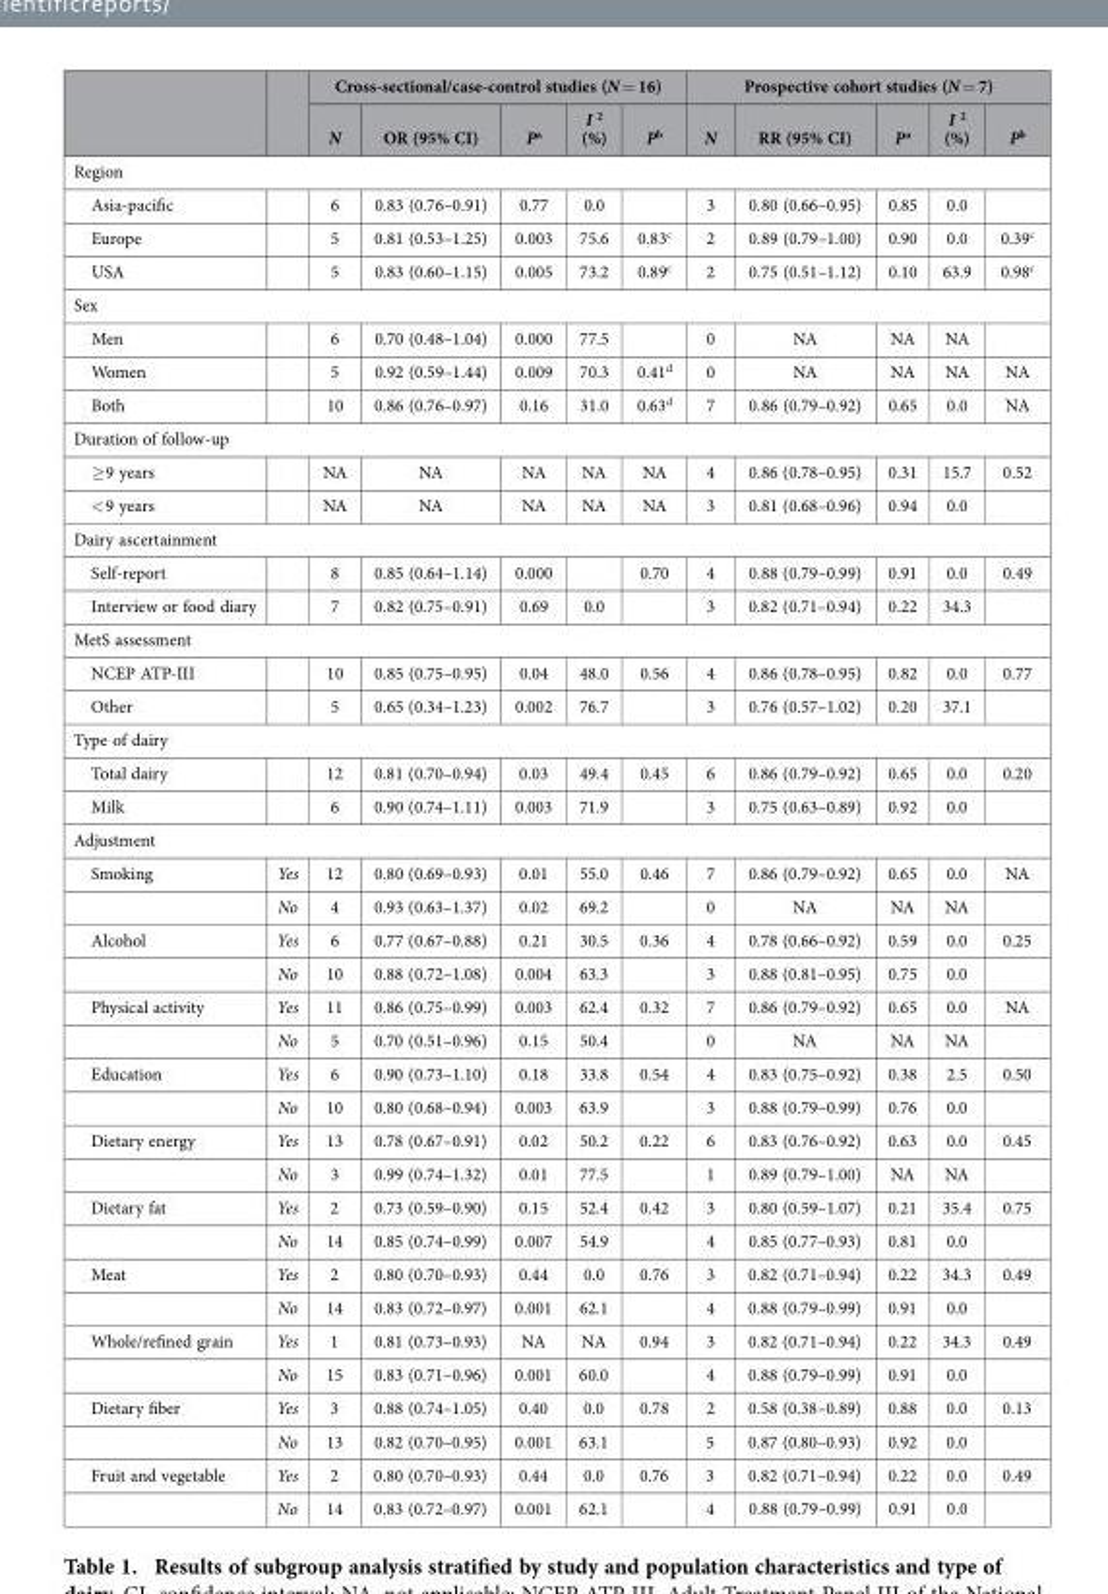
<table><thead><tr><td rowspan="2"></td><td rowspan="2"></td><td colspan="5">Cross-sectional/case-control studies (N = 16)</td><td colspan="5">Prospective cohort studies (N = 7)</td></tr><tr><td>N</td><td>OR (95% CI)</td><td>P<sup>a</sup></td><td>I <sup>2</sup> (%)</td><td>P<sup>b</sup></td><td>N</td><td>RR (95% CI)</td><td>P<sup>a</sup></td><td>I <sup>2</sup> (%)</td><td>P<sup>b</sup></td></tr></thead><tbody><tr><td colspan="12">Region</td></tr><tr><td>Asia-pacific</td><td></td><td>6</td><td>0.83 (0.76–0.91)</td><td>0.77</td><td>0.0</td><td></td><td>3</td><td>0.80 (0.66–0.95)</td><td>0.85</td><td>0.0</td><td></td></tr><tr><td>Europe</td><td></td><td>5</td><td>0.81 (0.53–1.25)</td><td>0.003</td><td>75.6</td><td>0.83<sup>c</sup></td><td>2</td><td>0.89 (0.79–1.00)</td><td>0.90</td><td>0.0</td><td>0.39<sup>c</sup></td></tr><tr><td>USA</td><td></td><td>5</td><td>0.83 (0.60–1.15)</td><td>0.005</td><td>73.2</td><td>0.89<sup>c</sup></td><td>2</td><td>0.75 (0.51–1.12)</td><td>0.10</td><td>63.9</td><td>0.98<sup>c</sup></td></tr><tr><td colspan="12">Sex</td></tr><tr><td>Men</td><td></td><td>6</td><td>0.70 (0.48–1.04)</td><td>0.000</td><td>77.5</td><td></td><td>0</td><td>NA</td><td>NA</td><td>NA</td><td></td></tr><tr><td>Women</td><td></td><td>5</td><td>0.92 (0.59–1.44)</td><td>0.009</td><td>70.3</td><td>0.41<sup>d</sup></td><td>0</td><td>NA</td><td>NA</td><td>NA</td><td>NA</td></tr><tr><td>Both</td><td></td><td>10</td><td>0.86 (0.76–0.97)</td><td>0.16</td><td>31.0</td><td>0.63<sup>d</sup></td><td>7</td><td>0.86 (0.79–0.92)</td><td>0.65</td><td>0.0</td><td>NA</td></tr><tr><td colspan="12">Duration of follow-up</td></tr><tr><td>≥ 9 years</td><td></td><td>NA</td><td>NA</td><td>NA</td><td>NA</td><td>NA</td><td>4</td><td>0.86 (0.78–0.95)</td><td>0.31</td><td>15.7</td><td>0.52</td></tr><tr><td>&lt; 9 years</td><td></td><td>NA</td><td>NA</td><td>NA</td><td>NA</td><td>NA</td><td>3</td><td>0.81 (0.68–0.96)</td><td>0.94</td><td>0.0</td><td></td></tr><tr><td colspan="12">Dairy ascertainment</td></tr><tr><td>Self-report</td><td></td><td>8</td><td>0.85 (0.64–1.14)</td><td>0.000</td><td></td><td>0.70</td><td>4</td><td>0.88 (0.79–0.99)</td><td>0.91</td><td>0.0</td><td>0.49</td></tr><tr><td>Interview or food diary</td><td></td><td>7</td><td>0.82 (0.75–0.91)</td><td>0.69</td><td>0.0</td><td></td><td>3</td><td>0.82 (0.71–0.94)</td><td>0.22</td><td>34.3</td><td></td></tr><tr><td colspan="12">MetS assessment</td></tr><tr><td>NCEP ATP-III</td><td></td><td>10</td><td>0.85 (0.75–0.95)</td><td>0.04</td><td>48.0</td><td>0.56</td><td>4</td><td>0.86 (0.78–0.95)</td><td>0.82</td><td>0.0</td><td>0.77</td></tr><tr><td>Other</td><td></td><td>5</td><td>0.65 (0.34–1.23)</td><td>0.002</td><td>76.7</td><td></td><td>3</td><td>0.76 (0.57–1.02)</td><td>0.20</td><td>37.1</td><td></td></tr><tr><td colspan="12">Type of dairy</td></tr><tr><td>Total dairy</td><td></td><td>12</td><td>0.81 (0.70–0.94)</td><td>0.03</td><td>49.4</td><td>0.45</td><td>6</td><td>0.86 (0.79–0.92)</td><td>0.65</td><td>0.0</td><td>0.20</td></tr><tr><td>Milk</td><td></td><td>6</td><td>0.90 (0.74–1.11)</td><td>0.003</td><td>71.9</td><td></td><td>3</td><td>0.75 (0.63–0.89)</td><td>0.92</td><td>0.0</td><td></td></tr><tr><td colspan="12">Adjustment</td></tr><tr><td rowspan="2">Smoking</td><td>Yes</td><td>12</td><td>0.80 (0.69–0.93)</td><td>0.01</td><td>55.0</td><td>0.46</td><td>7</td><td>0.86 (0.79–0.92)</td><td>0.65</td><td>0.0</td><td>NA</td></tr><tr><td>No</td><td>4</td><td>0.93 (0.63–1.37)</td><td>0.02</td><td>69.2</td><td></td><td>0</td><td>NA</td><td>NA</td><td>NA</td><td></td></tr><tr><td rowspan="2">Alcohol</td><td>Yes</td><td>6</td><td>0.77 (0.67–0.88)</td><td>0.21</td><td>30.5</td><td>0.36</td><td>4</td><td>0.78 (0.66–0.92)</td><td>0.59</td><td>0.0</td><td>0.25</td></tr><tr><td>No</td><td>10</td><td>0.88 (0.72–1.08)</td><td>0.004</td><td>63.3</td><td></td><td>3</td><td>0.88 (0.81–0.95)</td><td>0.75</td><td>0.0</td><td></td></tr><tr><td rowspan="2">Physical activity</td><td>Yes</td><td>11</td><td>0.86 (0.75–0.99)</td><td>0.003</td><td>62.4</td><td>0.32</td><td>7</td><td>0.86 (0.79–0.92)</td><td>0.65</td><td>0.0</td><td>NA</td></tr><tr><td>No</td><td>5</td><td>0.70 (0.51–0.96)</td><td>0.15</td><td>50.4</td><td></td><td>0</td><td>NA</td><td>NA</td><td>NA</td><td></td></tr><tr><td rowspan="2">Education</td><td>Yes</td><td>6</td><td>0.90 (0.73–1.10)</td><td>0.18</td><td>33.8</td><td>0.54</td><td>4</td><td>0.83 (0.75–0.92)</td><td>0.38</td><td>2.5</td><td>0.50</td></tr><tr><td>No</td><td>10</td><td>0.80 (0.68–0.94)</td><td>0.003</td><td>63.9</td><td></td><td>3</td><td>0.88 (0.79–0.99)</td><td>0.76</td><td>0.0</td><td></td></tr><tr><td rowspan="2">Dietary energy</td><td>Yes</td><td>13</td><td>0.78 (0.67–0.91)</td><td>0.02</td><td>50.2</td><td>0.22</td><td>6</td><td>0.83 (0.76–0.92)</td><td>0.63</td><td>0.0</td><td>0.45</td></tr><tr><td>No</td><td>3</td><td>0.99 (0.74–1.32)</td><td>0.01</td><td>77.5</td><td></td><td>1</td><td>0.89 (0.79–1.00)</td><td>NA</td><td>NA</td><td></td></tr><tr><td rowspan="2">Dietary fat</td><td>Yes</td><td>2</td><td>0.73 (0.59–0.90)</td><td>0.15</td><td>52.4</td><td>0.42</td><td>3</td><td>0.80 (0.59–1.07)</td><td>0.21</td><td>35.4</td><td>0.75</td></tr><tr><td>No</td><td>14</td><td>0.85 (0.74–0.99)</td><td>0.007</td><td>54.9</td><td></td><td>4</td><td>0.85 (0.77–0.93)</td><td>0.81</td><td>0.0</td><td></td></tr><tr><td rowspan="2">Meat</td><td>Yes</td><td>2</td><td>0.80 (0.70–0.93)</td><td>0.44</td><td>0.0</td><td>0.76</td><td>3</td><td>0.82 (0.71–0.94)</td><td>0.22</td><td>34.3</td><td>0.49</td></tr><tr><td>No</td><td>14</td><td>0.83 (0.72–0.97)</td><td>0.001</td><td>62.1</td><td></td><td>4</td><td>0.88 (0.79–0.99)</td><td>0.91</td><td>0.0</td><td></td></tr><tr><td rowspan="2">Whole/refined grain</td><td>Yes</td><td>1</td><td>0.81 (0.73–0.93)</td><td>NA</td><td>NA</td><td>0.94</td><td>3</td><td>0.82 (0.71–0.94)</td><td>0.22</td><td>34.3</td><td>0.49</td></tr><tr><td>No</td><td>15</td><td>0.83 (0.71–0.96)</td><td>0.001</td><td>60.0</td><td></td><td>4</td><td>0.88 (0.79–0.99)</td><td>0.91</td><td>0.0</td><td></td></tr><tr><td rowspan="2">Dietary fiber</td><td>Yes</td><td>3</td><td>0.88 (0.74–1.05)</td><td>0.40</td><td>0.0</td><td>0.78</td><td>2</td><td>0.58 (0.38–0.89)</td><td>0.88</td><td>0.0</td><td>0.13</td></tr><tr><td>No</td><td>13</td><td>0.82 (0.70–0.95)</td><td>0.001</td><td>63.1</td><td></td><td>5</td><td>0.87 (0.80–0.93)</td><td>0.92</td><td>0.0</td><td></td></tr><tr><td rowspan="2">Fruit and vegetable</td><td>Yes</td><td>2</td><td>0.80 (0.70–0.93)</td><td>0.44</td><td>0.0</td><td>0.76</td><td>3</td><td>0.82 (0.71–0.94)</td><td>0.22</td><td>0.0</td><td>0.49</td></tr><tr><td>No</td><td>14</td><td>0.83 (0.72–0.97)</td><td>0.001</td><td>62.1</td><td></td><td>4</td><td>0.88 (0.79–0.99)</td><td>0.91</td><td>0.0</td><td></td></tr></tbody></table>